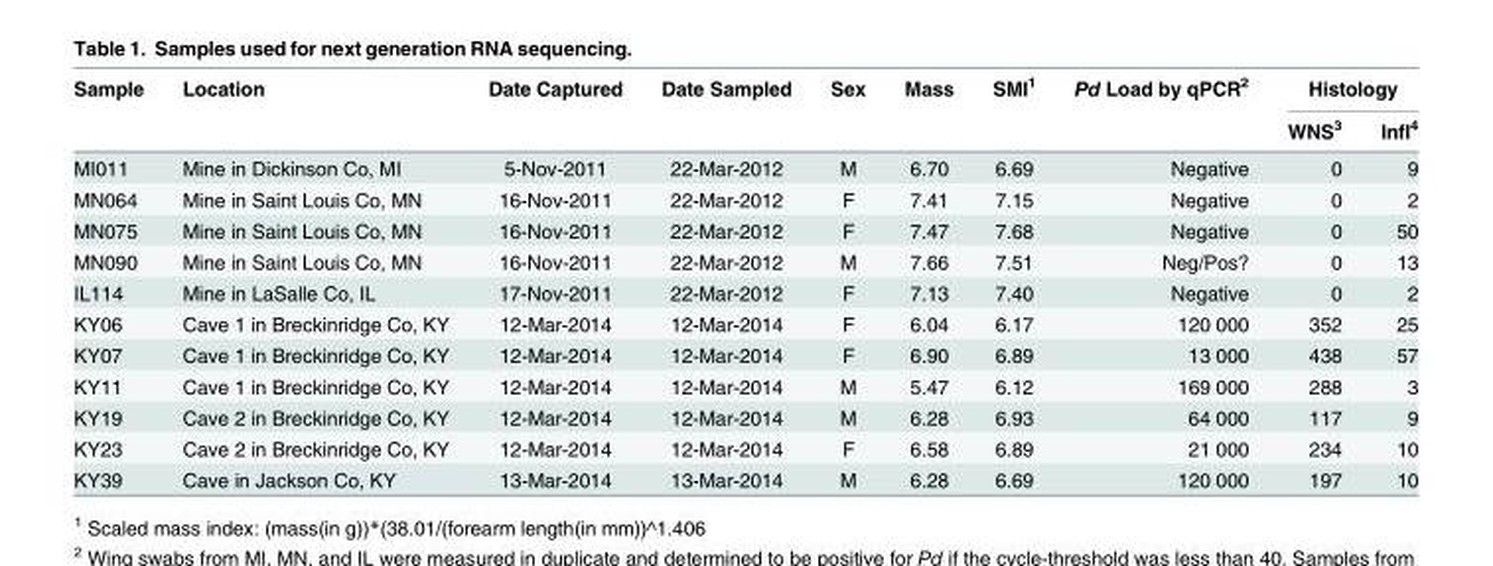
<table><thead><tr><td rowspan="2">Sample</td><td rowspan="2">Location</td><td rowspan="2">Date Captured</td><td rowspan="2">Date Sampled</td><td rowspan="2">Sex</td><td rowspan="2">Mass</td><td rowspan="2">SMI<sup>1</sup></td><td rowspan="2">Pd Load by qPCR<sup>2</sup></td><td colspan="2">Histology</td></tr><tr><td>WNS<sup>3</sup></td><td>Infl<sup>4</sup></td></tr></thead><tbody><tr><td>MI011</td><td>Mine in Dickinson Co, MI</td><td>5-Nov-2011</td><td>22-Mar-2012</td><td>M</td><td>6.70</td><td>6.69</td><td>Negative</td><td>0</td><td>9</td></tr><tr><td>MN064</td><td>Mine in Saint Louis Co, MN</td><td>16-Nov-2011</td><td>22-Mar-2012</td><td>F</td><td>7.41</td><td>7.15</td><td>Negative</td><td>0</td><td>2</td></tr><tr><td>MN075</td><td>Mine in Saint Louis Co, MN</td><td>16-Nov-2011</td><td>22-Mar-2012</td><td>F</td><td>7.47</td><td>7.68</td><td>Negative</td><td>0</td><td>50</td></tr><tr><td>MN090</td><td>Mine in Saint Louis Co, MN</td><td>16-Nov-2011</td><td>22-Mar-2012</td><td>M</td><td>7.66</td><td>7.51</td><td>Neg/Pos?</td><td>0</td><td>13</td></tr><tr><td>IL114</td><td>Mine in LaSalle Co, IL</td><td>17-Nov-2011</td><td>22-Mar-2012</td><td>F</td><td>7.13</td><td>7.40</td><td>Negative</td><td>0</td><td>2</td></tr><tr><td>KY06</td><td>Cave 1 in Breckinridge Co, KY</td><td>12-Mar-2014</td><td>12-Mar-2014</td><td>F</td><td>6.04</td><td>6.17</td><td>120 000</td><td>352</td><td>25</td></tr><tr><td>KY07</td><td>Cave 1 in Breckinridge Co, KY</td><td>12-Mar-2014</td><td>12-Mar-2014</td><td>F</td><td>6.90</td><td>6.89</td><td>13 000</td><td>438</td><td>57</td></tr><tr><td>KY11</td><td>Cave 1 in Breckinridge Co, KY</td><td>12-Mar-2014</td><td>12-Mar-2014</td><td>M</td><td>5.47</td><td>6.12</td><td>169 000</td><td>288</td><td>3</td></tr><tr><td>KY19</td><td>Cave 2 in Breckinridge Co, KY</td><td>12-Mar-2014</td><td>12-Mar-2014</td><td>M</td><td>6.28</td><td>6.93</td><td>64 000</td><td>117</td><td>9</td></tr><tr><td>KY23</td><td>Cave 2 in Breckinridge Co, KY</td><td>12-Mar-2014</td><td>12-Mar-2014</td><td>F</td><td>6.58</td><td>6.89</td><td>21 000</td><td>234</td><td>10</td></tr><tr><td>KY39</td><td>Cave in Jackson Co, KY</td><td>13-Mar-2014</td><td>13-Mar-2014</td><td>M</td><td>6.28</td><td>6.69</td><td>120 000</td><td>197</td><td>10</td></tr></tbody></table>